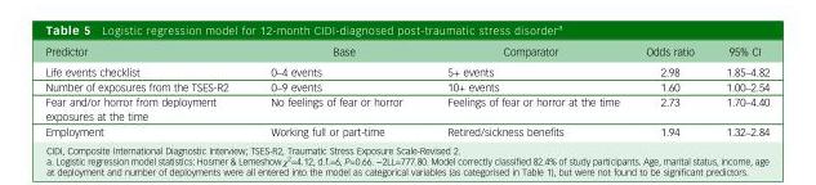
<table><thead><tr><td>Predictor</td><td>Base</td><td>Comparator</td><td>Odds ratio</td><td>95% CI</td></tr></thead><tbody><tr><td>Life events checklist</td><td>0–4 events</td><td>5+ events</td><td>2.98</td><td>1.85–4.82</td></tr><tr><td>Number of exposures from the TSES-R2</td><td>0–9 events</td><td>10+ events</td><td>1.60</td><td>1.00–2.54</td></tr><tr><td>Fear and/or horror from deployment exposures at the time</td><td>No feelings of fear or horror</td><td>Feelings of fear or horror at the time</td><td>2.73</td><td>1.70–4.40</td></tr><tr><td>Employment</td><td>Working full or part-time</td><td>Retired/sickness benefits</td><td>1.94</td><td>1.32–2.84</td></tr></tbody></table>